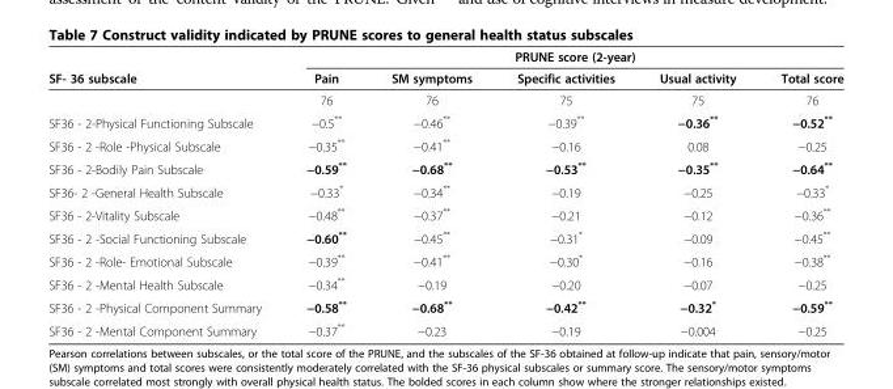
<table><thead><tr><td rowspan="2">SF- 36 subscale</td><td colspan="5">PRUNE score (2-year)</td></tr><tr><td>Pain</td><td>SM symptoms</td><td>Specific activities</td><td>Usual activity</td><td>Total score</td></tr></thead><tbody><tr><td></td><td>76</td><td>76</td><td>75</td><td>75</td><td>76</td></tr><tr><td>SF36 - 2-Physical Functioning Subscale</td><td>−0.5**</td><td>−0.46**</td><td>−0.39**</td><td>−0.36**</td><td>−0.52**</td></tr><tr><td>SF36 - 2 -Role -Physical Subscale</td><td>−0.35**</td><td>−0.41**</td><td>−0.16</td><td>0.08</td><td>−0.25</td></tr><tr><td>SF36 - 2-Bodily Pain Subscale</td><td>−0.59**</td><td>−0.68**</td><td>−0.53**</td><td>−0.35**</td><td>−0.64**</td></tr><tr><td>SF36- 2 -General Health Subscale</td><td>−0.33*</td><td>−0.34**</td><td>−0.19</td><td>−0.25</td><td>−0.33*</td></tr><tr><td>SF36 - 2-Vitality Subscale</td><td>−0.48**</td><td>−0.37**</td><td>−0.21</td><td>−0.12</td><td>−0.36**</td></tr><tr><td>SF36 - 2 -Social Functioning Subscale</td><td>−0.60**</td><td>−0.45**</td><td>−0.31*</td><td>−0.09</td><td>−0.45**</td></tr><tr><td>SF36 - 2 -Role- Emotional Subscale</td><td>−0.39**</td><td>−0.41**</td><td>−0.30*</td><td>−0.16</td><td>−0.38**</td></tr><tr><td>SF36 - 2 -Mental Health Subscale</td><td>−0.34**</td><td>−0.19</td><td>−0.20</td><td>−0.07</td><td>−0.25</td></tr><tr><td>SF36 - 2 -Physical Component Summary</td><td>−0.58**</td><td>−0.68**</td><td>−0.42**</td><td>−0.32*</td><td>−0.59**</td></tr><tr><td>SF36 - 2 -Mental Component Summary</td><td>−0.37**</td><td>−0.23</td><td>−0.19</td><td>−0.004</td><td>−0.25</td></tr></tbody></table>